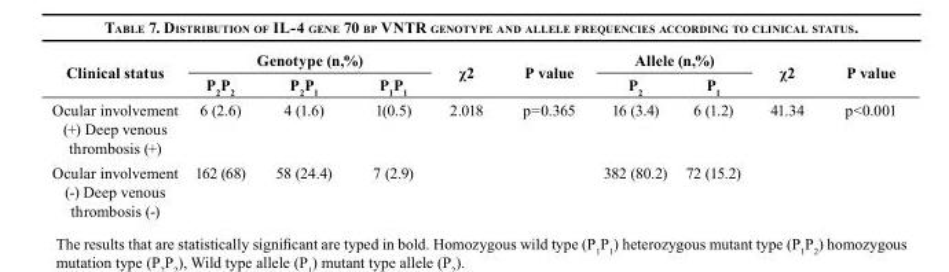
<table><thead><tr><td rowspan="2">Clinical status</td><td colspan="3">Genotype (n,%)</td><td rowspan="2">χ2</td><td rowspan="2">P value</td><td colspan="2">Allele (n,%)</td><td rowspan="2">χ2</td><td rowspan="2">P value</td></tr><tr><td>P<sub>2</sub>P<sub>2</sub></td><td>P<sub>2</sub>P<sub>1</sub></td><td>P<sub>1</sub>P<sub>1</sub></td><td>P<sub>2</sub></td><td>P<sub>1</sub></td></tr></thead><tbody><tr><td>Ocular involvement (+) Deep venous thrombosis (+)</td><td>6 (2.6)</td><td>4 (1.6)</td><td>1(0.5)</td><td rowspan="2">2.018</td><td rowspan="2">p=0.365</td><td>16 (3.4)</td><td>6 (1.2)</td><td rowspan="2">41.34</td><td rowspan="2">p&lt;0.001</td></tr><tr><td>Ocular involvement (-) Deep venous thrombosis (-)</td><td>162 (68)</td><td>58 (24.4)</td><td>7 (2.9)</td><td>382 (80.2)</td><td>72 (15.2)</td></tr></tbody></table>